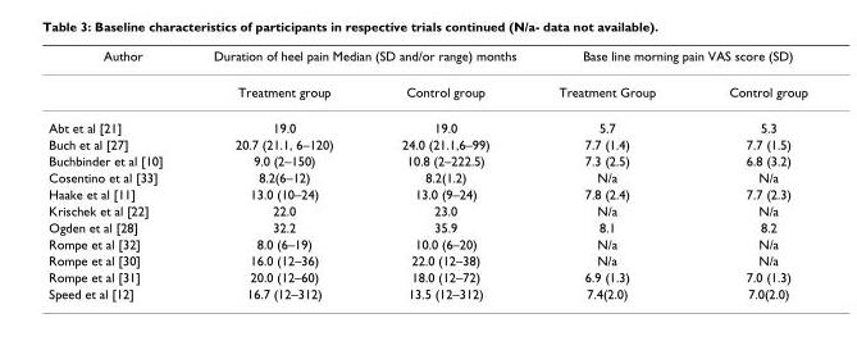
<table><thead><tr><td rowspan="2">Author</td><td colspan="2">Duration of heel pain Median (SD and/or range) months</td><td colspan="2">Base line morning pain VAS score (SD)</td></tr><tr><td>Treatment group</td><td>Control group</td><td>Treatment Group</td><td>Control group</td></tr></thead><tbody><tr><td>Abt et al [21]</td><td>19.0</td><td>19.0</td><td>5.7</td><td>5.3</td></tr><tr><td>Buch et al [27]</td><td>20.7 (21.1, 6–120)</td><td>24.0 (21.1,6–99)</td><td>7.7 (1.4)</td><td>7.7 (1.5)</td></tr><tr><td>Buchbinder et al [10]</td><td>9.0 (2–150)</td><td>10.8 (2–222.5)</td><td>7.3 (2.5)</td><td>6.8 (3.2)</td></tr><tr><td>Cosentino et al [33]</td><td>8.2(6–12)</td><td>8.2(1.2)</td><td>N/a</td><td>N/a</td></tr><tr><td>Haake et al [11]</td><td>13.0 (10–24)</td><td>13.0 (9–24)</td><td>7.8 (2.4)</td><td>7.7 (2.3)</td></tr><tr><td>Krischek et al [22]</td><td>22.0</td><td>23.0</td><td>N/a</td><td>N/a</td></tr><tr><td>Ogden et al [28]</td><td>32.2</td><td>35.9</td><td>8.1</td><td>8.2</td></tr><tr><td>Rompe et al [32]</td><td>8.0 (6–19)</td><td>10.0 (6–20)</td><td>N/a</td><td>N/a</td></tr><tr><td>Rompe et al [30]</td><td>16.0 (12–36)</td><td>22.0 (12–38)</td><td>N/a</td><td>N/a</td></tr><tr><td>Rompe et al [31]</td><td>20.0 (12–60)</td><td>18.0 (12–72)</td><td>6.9 (1.3)</td><td>7.0 (1.3)</td></tr><tr><td>Speed et al [12]</td><td>16.7 (12–312)</td><td>13.5 (12–312)</td><td>7.4(2.0)</td><td>7.0(2.0)</td></tr></tbody></table>